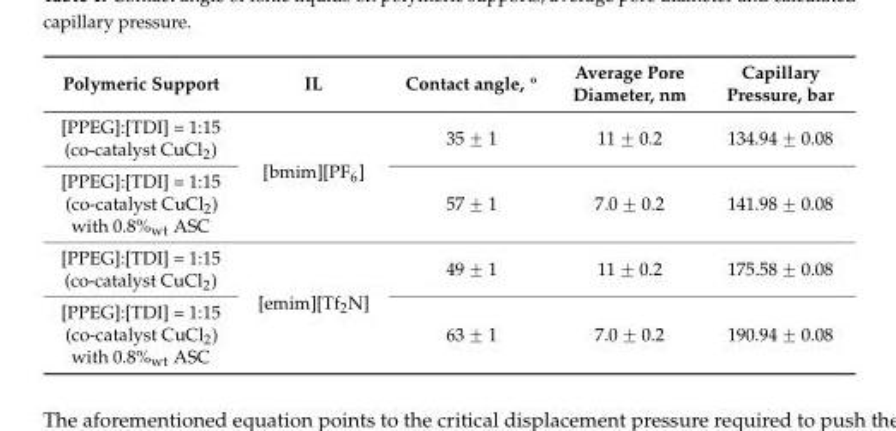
<table><thead><tr><td>Polymeric Support</td><td>IL</td><td>Contact angle, º</td><td>Average Pore Diameter, nm</td><td>Capillary Pressure, bar</td></tr></thead><tbody><tr><td>[PPEG]:[TDI] = 1:15 (co-catalyst CuCl2)</td><td rowspan="2">[bmim][PF6]</td><td>35 ˘ 1</td><td>11 ˘ 0.2</td><td>134.94 ˘ 0.08</td></tr><tr><td>[PPEG]:[TDI] = 1:15 (co-catalyst CuCl2) with 0.8%wt ASC</td><td>57 ˘ 1</td><td>7.0 ˘ 0.2</td><td>141.98 ˘ 0.08</td></tr><tr><td>[PPEG]:[TDI] = 1:15 (co-catalyst CuCl2)</td><td rowspan="2">[emim][Tf2N]</td><td>49 ˘ 1</td><td>11 ˘ 0.2</td><td>175.58 ˘ 0.08</td></tr><tr><td>[PPEG]:[TDI] = 1:15 (co-catalyst CuCl2) with 0.8%wt ASC</td><td>63 ˘ 1</td><td>7.0 ˘ 0.2</td><td>190.94 ˘ 0.08</td></tr></tbody></table>